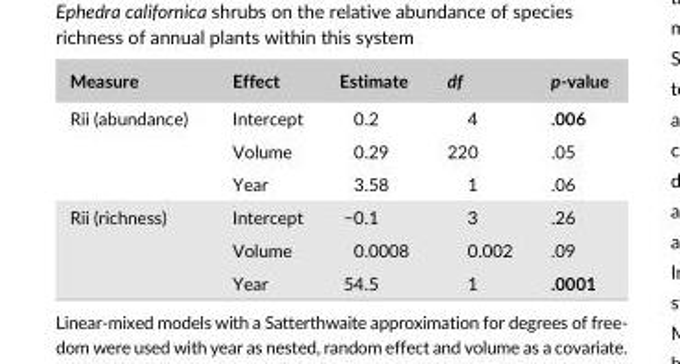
<table><thead><tr><td>Measure</td><td>Effect</td><td>Estimate</td><td>df</td><td>p- value</td></tr></thead><tbody><tr><td rowspan="3">Rii (abundance)</td><td>Intercept</td><td>0.2</td><td>4</td><td>.006</td></tr><tr><td>Volume</td><td>0.29</td><td>220</td><td>.05</td></tr><tr><td>Year</td><td>3.58</td><td>1</td><td>.06</td></tr><tr><td rowspan="3">Rii (richness)</td><td>Intercept</td><td>−0.1</td><td>3</td><td>.26</td></tr><tr><td>Volume</td><td>0.0008</td><td>0.002</td><td>.09</td></tr><tr><td>Year</td><td>54.5</td><td>1</td><td>.0001</td></tr></tbody></table>